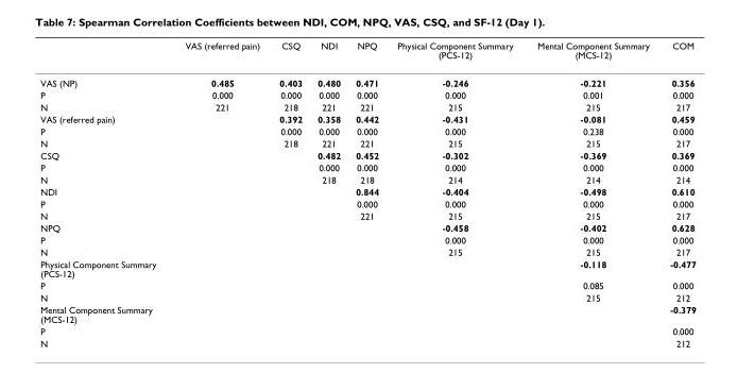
<table><thead><tr><td></td><td>VAS (referred pain)</td><td>CSQ</td><td>NDI</td><td>NPQ</td><td>Physical Component Summary (PCS-12)</td><td>Mental Component Summary (MCS-12)</td><td>COM</td></tr></thead><tbody><tr><td>VAS (NP)</td><td>0.485</td><td>0.403</td><td>0.480</td><td>0.471</td><td>-0.246</td><td>-0.221</td><td>0.356</td></tr><tr><td>P</td><td>0.000</td><td>0.000</td><td>0.000</td><td>0.000</td><td>0.000</td><td>0.001</td><td>0.000</td></tr><tr><td>N</td><td>221</td><td>218</td><td>221</td><td>221</td><td>215</td><td>215</td><td>217</td></tr><tr><td>VAS (referred pain)</td><td></td><td>0.392</td><td>0.358</td><td>0.442</td><td>-0.431</td><td>-0.081</td><td>0.459</td></tr><tr><td>P</td><td></td><td>0.000</td><td>0.000</td><td>0.000</td><td>0.000</td><td>0.238</td><td>0.000</td></tr><tr><td>N</td><td></td><td>218</td><td>221</td><td>221</td><td>215</td><td>215</td><td>217</td></tr><tr><td>CSQ</td><td></td><td></td><td>0.482</td><td>0.452</td><td>-0.302</td><td>-0.369</td><td>0.369</td></tr><tr><td>P</td><td></td><td></td><td>0.000</td><td>0.000</td><td>0.000</td><td>0.000</td><td>0.000</td></tr><tr><td>N</td><td></td><td></td><td>218</td><td>218</td><td>214</td><td>214</td><td>214</td></tr><tr><td>NDI</td><td></td><td></td><td></td><td>0.844</td><td>-0.404</td><td>-0.498</td><td>0.610</td></tr><tr><td>P</td><td></td><td></td><td></td><td>0.000</td><td>0.000</td><td>0.000</td><td>0.000</td></tr><tr><td>N</td><td></td><td></td><td></td><td>221</td><td>215</td><td>215</td><td>217</td></tr><tr><td>NPQ</td><td></td><td></td><td></td><td></td><td>-0.458</td><td>-0.402</td><td>0.628</td></tr><tr><td>P</td><td></td><td></td><td></td><td></td><td>0.000</td><td>0.000</td><td>0.000</td></tr><tr><td>N</td><td></td><td></td><td></td><td></td><td>215</td><td>215</td><td>217</td></tr><tr><td>Physical Component Summary (PCS-12)</td><td></td><td></td><td></td><td></td><td></td><td>-0.118</td><td>-0.477</td></tr><tr><td>P</td><td></td><td></td><td></td><td></td><td></td><td>0.085</td><td>0.000</td></tr><tr><td>N</td><td></td><td></td><td></td><td></td><td></td><td>215</td><td>212</td></tr><tr><td>Mental Component Summary (MCS-12)</td><td></td><td></td><td></td><td></td><td></td><td></td><td>-0.379</td></tr><tr><td>P</td><td></td><td></td><td></td><td></td><td></td><td></td><td>0.000</td></tr><tr><td>N</td><td></td><td></td><td></td><td></td><td></td><td></td><td>212</td></tr></tbody></table>